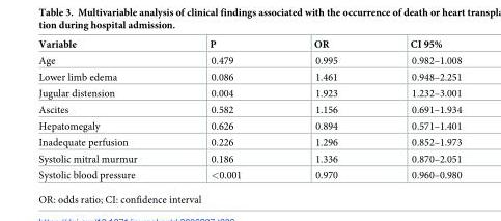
<table><thead><tr><td>Variable</td><td>P</td><td>OR</td><td>CI 95%</td></tr></thead><tbody><tr><td>Age</td><td>0.479</td><td>0.995</td><td>0.982–1.008</td></tr><tr><td>Lower limb edema</td><td>0.086</td><td>1.461</td><td>0.948–2.251</td></tr><tr><td>Jugular distension</td><td>0.004</td><td>1.923</td><td>1.232–3.001</td></tr><tr><td>Ascites</td><td>0.582</td><td>1.156</td><td>0.691–1.934</td></tr><tr><td>Hepatomegaly</td><td>0.626</td><td>0.894</td><td>0.571–1.401</td></tr><tr><td>Inadequate perfusion</td><td>0.226</td><td>1.296</td><td>0.852–1.973</td></tr><tr><td>Systolic mitral murmur</td><td>0.186</td><td>1.336</td><td>0.870–2.051</td></tr><tr><td>Systolic blood pressure</td><td>&lt;0.001</td><td>0.970</td><td>0.960–0.980</td></tr></tbody></table>